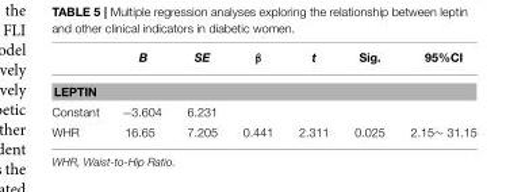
<table><thead><tr><td></td><td>B</td><td>SE</td><td>β</td><td>t</td><td>Sig.</td><td>95%CI</td></tr></thead><tbody><tr><td colspan="7">LEPTIN</td></tr><tr><td>Constant</td><td>−3.604</td><td>6.231</td><td></td><td></td><td></td><td></td></tr><tr><td>WHR</td><td>16.65</td><td>7.205</td><td>0.441</td><td>2.311</td><td>0.025</td><td>2.15∼ 31.15</td></tr></tbody></table>